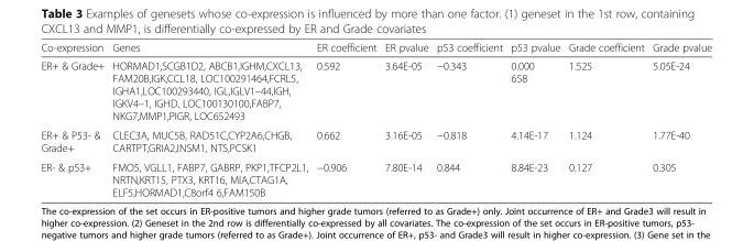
<table><thead><tr><td>Co-expression</td><td>Genes</td><td>ER coefficient</td><td>ER pvalue</td><td>p53 coefficient</td><td>p53 pvalue</td><td>Grade coefficient</td><td>Grade pvalue</td></tr></thead><tbody><tr><td>ER+ &amp; Grade+</td><td>HORMAD1,SCGB1D2, ABCB1,IGHM,CXCL13, FAM20B,IGK,CCL18, LOC100291464,FCRL5, IGHA1,LOC100293440, IGL,IGLV1–44,IGH, IGKV4–1, IGHD, LOC100130100,FABP7, NKG7,MMP1,PIGR, LOC652493</td><td>0.592</td><td>3.64E-05</td><td>−0.343</td><td>0.000 658</td><td>1.525</td><td>5.05E-24</td></tr><tr><td>ER+ &amp; P53- &amp; Grade+</td><td>CLEC3A, MUC5B, RAD51C,CYP2A6,CHGB, CARTPT,GRIA2,INSM1, NTS,PCSK1</td><td>0.662</td><td>3.16E-05</td><td>−0.818</td><td>4.14E-17</td><td>1.124</td><td>1.77E-40</td></tr><tr><td>ER- &amp; p53+</td><td>FMO5, VGLL1, FABP7, GABRP, PKP1,TFCP2L1, NRTN,KRT15, PTX3, KRT16, MIA,CTAG1A, ELF5,HORMAD1,C8orf4 6,FAM150B</td><td>−0.906</td><td>7.80E-14</td><td>0.844</td><td>8.84E-23</td><td>0.127</td><td>0.305</td></tr></tbody></table>